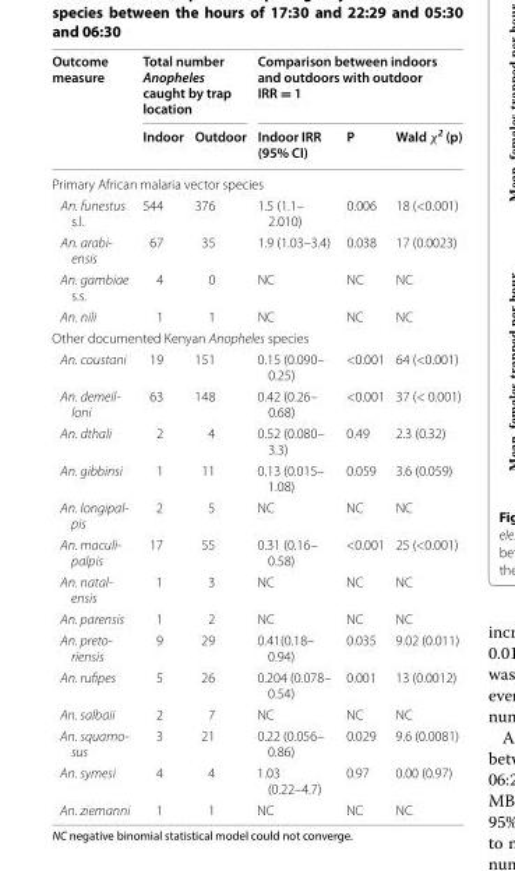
<table><thead><tr><td rowspan="2">Outcome measure</td><td colspan="2">Total number Anopheles caught by trap location</td><td colspan="3">Comparison between indoors and outdoors with outdoor IRR = 1</td></tr><tr><td>Indoor</td><td>Outdoor</td><td>Indoor IRR (95% CI)</td><td>P</td><td>Wald χ<sup>2</sup> (p)</td></tr></thead><tbody><tr><td colspan="6">Primary African malaria vector species</td></tr><tr><td>An. funestus s.l.</td><td>544</td><td>376</td><td>1.5 (1.1– 2.010)</td><td>0.006</td><td>18 (&lt;0.001)</td></tr><tr><td>An. arabi- ensis</td><td>67</td><td>35</td><td>1.9 (1.03–3.4)</td><td>0.038</td><td>17 (0.0023)</td></tr><tr><td>An. gambiae s.s.</td><td>4</td><td>0</td><td>NC</td><td>NC</td><td>NC</td></tr><tr><td>An. nili</td><td>1</td><td>1</td><td>NC</td><td>NC</td><td>NC</td></tr><tr><td colspan="6">Other documented Kenyan Anopheles species</td></tr><tr><td>An. coustani</td><td>19</td><td>151</td><td>0.15 (0.090– 0.25)</td><td>&lt;0.001</td><td>64 (&lt;0.001)</td></tr><tr><td>An. demeil- loni</td><td>63</td><td>148</td><td>0.42 (0.26– 0.68)</td><td>&lt;0.001</td><td>37 (&lt; 0.001)</td></tr><tr><td>An. dthali</td><td>2</td><td>4</td><td>0.52 (0.080– 3.3)</td><td>0.49</td><td>2.3 (0.32)</td></tr><tr><td>An. gibbinsi</td><td>1</td><td>11</td><td>0.13 (0.015– 1.08)</td><td>0.059</td><td>3.6 (0.059)</td></tr><tr><td>An. longipal- pis</td><td>2</td><td>5</td><td>NC</td><td>NC</td><td>NC</td></tr><tr><td>An. maculi- palpis</td><td>17</td><td>55</td><td>0.31 (0.16– 0.58)</td><td>&lt;0.001</td><td>25 (&lt;0.001)</td></tr><tr><td>An. natal- ensis</td><td>1</td><td>3</td><td>NC</td><td>NC</td><td>NC</td></tr><tr><td>An. parensis</td><td>1</td><td>2</td><td>NC</td><td>NC</td><td>NC</td></tr><tr><td>An. preto- riensis</td><td>9</td><td>29</td><td>0.41(0.18– 0.94)</td><td>0.035</td><td>9.02 (0.011)</td></tr><tr><td>An. rufipes</td><td>5</td><td>26</td><td>0.204 (0.078– 0.54)</td><td>0.001</td><td>13 (0.0012)</td></tr><tr><td>An. salbaii</td><td>2</td><td>7</td><td>NC</td><td>NC</td><td>NC</td></tr><tr><td>An. squamo- sus</td><td>3</td><td>21</td><td>0.22 (0.056– 0.86)</td><td>0.029</td><td>9.6 (0.0081)</td></tr><tr><td>An. symesi</td><td>4</td><td>4</td><td>1.03 (0.22–4.7)</td><td>0.97</td><td>0.00 (0.97)</td></tr><tr><td>An. ziemanni</td><td>1</td><td>1</td><td>NC</td><td>NC</td><td>NC</td></tr></tbody></table>